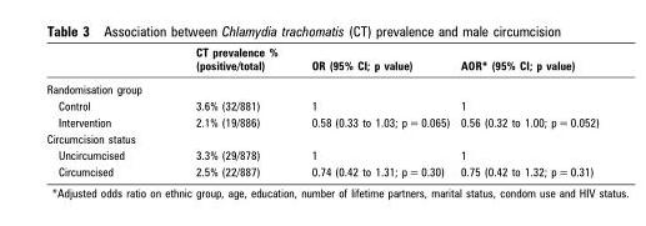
<table><thead><tr><td></td><td>CT prevalence % (positive/total)</td><td>OR (95% CI; p value)</td><td>AOR* (95% CI; p value)</td></tr></thead><tbody><tr><td colspan="4">Randomisation group</td></tr><tr><td>Control</td><td>3.6% (32/881)</td><td>1</td><td>1</td></tr><tr><td>Intervention</td><td>2.1% (19/886)</td><td>0.58 (0.33 to 1.03; p = 0.065)</td><td>0.56 (0.32 to 1.00; p = 0.052)</td></tr><tr><td colspan="4">Circumcision status</td></tr><tr><td>Uncircumcised</td><td>3.3% (29/878)</td><td>1</td><td>1</td></tr><tr><td>Circumcised</td><td>2.5% (22/887)</td><td>0.74 (0.42 to 1.31; p = 0.30)</td><td>0.75 (0.42 to 1.32; p = 0.31)</td></tr></tbody></table>